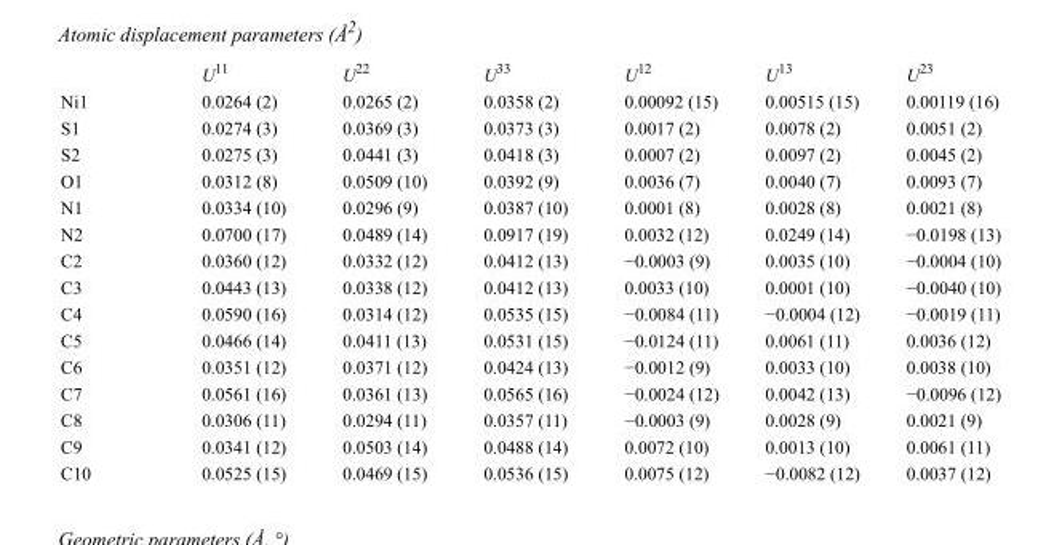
<table><thead><tr><td></td><td>U<sup>11</sup></td><td>U<sup>22</sup></td><td>U<sup>33</sup></td><td>U<sup>12</sup></td><td>U<sup>13</sup></td><td>U<sup>23</sup></td></tr></thead><tbody><tr><td>Ni1</td><td>0.0264 (2)</td><td>0.0265 (2)</td><td>0.0358 (2)</td><td>0.00092 (15)</td><td>0.00515 (15)</td><td>0.00119 (16)</td></tr><tr><td>S1</td><td>0.0274 (3)</td><td>0.0369 (3)</td><td>0.0373 (3)</td><td>0.0017 (2)</td><td>0.0078 (2)</td><td>0.0051 (2)</td></tr><tr><td>S2</td><td>0.0275 (3)</td><td>0.0441 (3)</td><td>0.0418 (3)</td><td>0.0007 (2)</td><td>0.0097 (2)</td><td>0.0045 (2)</td></tr><tr><td>O1</td><td>0.0312 (8)</td><td>0.0509 (10)</td><td>0.0392 (9)</td><td>0.0036 (7)</td><td>0.0040 (7)</td><td>0.0093 (7)</td></tr><tr><td>N1</td><td>0.0334 (10)</td><td>0.0296 (9)</td><td>0.0387 (10)</td><td>0.0001 (8)</td><td>0.0028 (8)</td><td>0.0021 (8)</td></tr><tr><td>N2</td><td>0.0700 (17)</td><td>0.0489 (14)</td><td>0.0917 (19)</td><td>0.0032 (12)</td><td>0.0249 (14)</td><td>−0.0198 (13)</td></tr><tr><td>C2</td><td>0.0360 (12)</td><td>0.0332 (12)</td><td>0.0412 (13)</td><td>−0.0003 (9)</td><td>0.0035 (10)</td><td>−0.0004 (10)</td></tr><tr><td>C3</td><td>0.0443 (13)</td><td>0.0338 (12)</td><td>0.0412 (13)</td><td>0.0033 (10)</td><td>0.0001 (10)</td><td>−0.0040 (10)</td></tr><tr><td>C4</td><td>0.0590 (16)</td><td>0.0314 (12)</td><td>0.0535 (15)</td><td>−0.0084 (11)</td><td>−0.0004 (12)</td><td>−0.0019 (11)</td></tr><tr><td>C5</td><td>0.0466 (14)</td><td>0.0411 (13)</td><td>0.0531 (15)</td><td>−0.0124 (11)</td><td>0.0061 (11)</td><td>0.0036 (12)</td></tr><tr><td>C6</td><td>0.0351 (12)</td><td>0.0371 (12)</td><td>0.0424 (13)</td><td>−0.0012 (9)</td><td>0.0033 (10)</td><td>0.0038 (10)</td></tr><tr><td>C7</td><td>0.0561 (16)</td><td>0.0361 (13)</td><td>0.0565 (16)</td><td>−0.0024 (12)</td><td>0.0042 (13)</td><td>−0.0096 (12)</td></tr><tr><td>C8</td><td>0.0306 (11)</td><td>0.0294 (11)</td><td>0.0357 (11)</td><td>−0.0003 (9)</td><td>0.0028 (9)</td><td>0.0021 (9)</td></tr><tr><td>C9</td><td>0.0341 (12)</td><td>0.0503 (14)</td><td>0.0488 (14)</td><td>0.0072 (10)</td><td>0.0013 (10)</td><td>0.0061 (11)</td></tr><tr><td>C10</td><td>0.0525 (15)</td><td>0.0469 (15)</td><td>0.0536 (15)</td><td>0.0075 (12)</td><td>−0.0082 (12)</td><td>0.0037 (12)</td></tr></tbody></table>